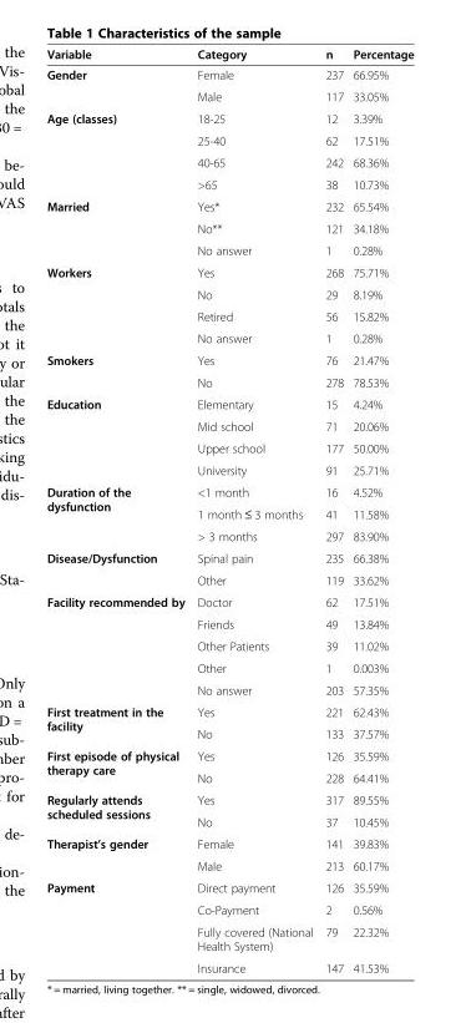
<table><thead><tr><td>Variable</td><td>Category</td><td>n</td><td>Percentage</td></tr></thead><tbody><tr><td rowspan="2">Gender</td><td>Female</td><td>237</td><td>66.95%</td></tr><tr><td>Male</td><td>117</td><td>33.05%</td></tr><tr><td rowspan="4">Age (classes)</td><td>18-25</td><td>12</td><td>3.39%</td></tr><tr><td>25-40</td><td>62</td><td>17.51%</td></tr><tr><td>40-65</td><td>242</td><td>68.36%</td></tr><tr><td>&gt;65</td><td>38</td><td>10.73%</td></tr><tr><td rowspan="3">Married</td><td>Yes*</td><td>232</td><td>65.54%</td></tr><tr><td>No**</td><td>121</td><td>34.18%</td></tr><tr><td>No answer</td><td>1</td><td>0.28%</td></tr><tr><td rowspan="4">Workers</td><td>Yes</td><td>268</td><td>75.71%</td></tr><tr><td>No</td><td>29</td><td>8.19%</td></tr><tr><td>Retired</td><td>56</td><td>15.82%</td></tr><tr><td>No answer</td><td>1</td><td>0.28%</td></tr><tr><td rowspan="2">Smokers</td><td>Yes</td><td>76</td><td>21.47%</td></tr><tr><td>No</td><td>278</td><td>78.53%</td></tr><tr><td rowspan="4">Education</td><td>Elementary</td><td>15</td><td>4.24%</td></tr><tr><td>Mid school</td><td>71</td><td>20.06%</td></tr><tr><td>Upper school</td><td>177</td><td>50.00%</td></tr><tr><td>University</td><td>91</td><td>25.71%</td></tr><tr><td rowspan="3">Duration of the dysfunction</td><td>&lt;1 month</td><td>16</td><td>4.52%</td></tr><tr><td>1 month ≤ 3 months</td><td>41</td><td>11.58%</td></tr><tr><td>&gt; 3 months</td><td>297</td><td>83.90%</td></tr><tr><td rowspan="2">Disease/Dysfunction</td><td>Spinal pain</td><td>235</td><td>66.38%</td></tr><tr><td>Other</td><td>119</td><td>33.62%</td></tr><tr><td rowspan="5">Facility recommended by</td><td>Doctor</td><td>62</td><td>17.51%</td></tr><tr><td>Friends</td><td>49</td><td>13.84%</td></tr><tr><td>Other Patients</td><td>39</td><td>11.02%</td></tr><tr><td>Other</td><td>1</td><td>0.003%</td></tr><tr><td>No answer</td><td>203</td><td>57.35%</td></tr><tr><td rowspan="2">First treatment in the facility</td><td>Yes</td><td>221</td><td>62.43%</td></tr><tr><td>No</td><td>133</td><td>37.57%</td></tr><tr><td rowspan="2">First episode of physical therapy care</td><td>Yes</td><td>126</td><td>35.59%</td></tr><tr><td>No</td><td>228</td><td>64.41%</td></tr><tr><td rowspan="2">Regularly attends scheduled sessions</td><td>Yes</td><td>317</td><td>89.55%</td></tr><tr><td>No</td><td>37</td><td>10.45%</td></tr><tr><td rowspan="2">Therapist’s gender</td><td>Female</td><td>141</td><td>39.83%</td></tr><tr><td>Male</td><td>213</td><td>60.17%</td></tr><tr><td rowspan="4">Payment</td><td>Direct payment</td><td>126</td><td>35.59%</td></tr><tr><td>Co-Payment</td><td>2</td><td>0.56%</td></tr><tr><td>Fully covered (National Health System)</td><td>79</td><td>22.32%</td></tr><tr><td>Insurance</td><td>147</td><td>41.53%</td></tr></tbody></table>